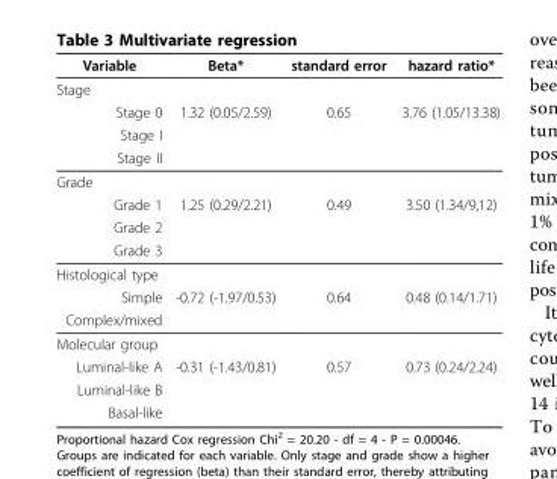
<table><thead><tr><td>Variable</td><td>Beta*</td><td>standard error</td><td>hazard ratio*</td></tr></thead><tbody><tr><td colspan="4">Stage</td></tr><tr><td>Stage 0</td><td>1.32 (0.05/2.59)</td><td>0.65</td><td>3.76 (1.05/13.38)</td></tr><tr><td colspan="4">Stage I</td></tr><tr><td colspan="4">Stage II</td></tr><tr><td colspan="4">Grade</td></tr><tr><td>Grade 1</td><td>1.25 (0.29/2.21)</td><td>0.49</td><td>3.50 (1.34/9,12)</td></tr><tr><td colspan="4">Grade 2</td></tr><tr><td colspan="4">Grade 3</td></tr><tr><td colspan="4">Histological type</td></tr><tr><td>Simple</td><td>-0.72 (-1.97/0.53)</td><td>0.64</td><td>0.48 (0.14/1.71)</td></tr><tr><td colspan="4">Complex/mixed</td></tr><tr><td colspan="4">Molecular group</td></tr><tr><td>Luminal-like A</td><td>-0.31 (-1.43/0.81)</td><td>0.57</td><td>0.73 (0.24/2.24)</td></tr><tr><td colspan="4">Luminal-like B</td></tr><tr><td>Basal-like</td><td></td><td></td><td></td></tr></tbody></table>